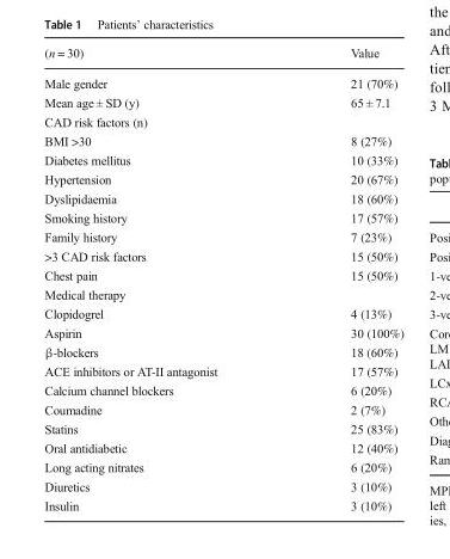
<table><thead><tr><td>(n = 30)</td><td>Value</td></tr></thead><tbody><tr><td>Male gender</td><td>21 (70%)</td></tr><tr><td>Mean age ± SD (y)</td><td>65 ± 7.1</td></tr><tr><td colspan="2">CAD risk factors (n)</td></tr><tr><td>BMI &gt;30</td><td>8 (27%)</td></tr><tr><td>Diabetes mellitus</td><td>10 (33%)</td></tr><tr><td>Hypertension</td><td>20 (67%)</td></tr><tr><td>Dyslipidaemia</td><td>18 (60%)</td></tr><tr><td>Smoking history</td><td>17 (57%)</td></tr><tr><td>Family history</td><td>7 (23%)</td></tr><tr><td>&gt;3 CAD risk factors</td><td>15 (50%)</td></tr><tr><td>Chest pain</td><td>15 (50%)</td></tr><tr><td colspan="2">Medical therapy</td></tr><tr><td>Clopidogrel</td><td>4 (13%)</td></tr><tr><td>Aspirin</td><td>30 (100%)</td></tr><tr><td>β-blockers</td><td>18 (60%)</td></tr><tr><td>ACE inhibitors or AT-II antagonist</td><td>17 (57%)</td></tr><tr><td>Calcium channel blockers</td><td>6 (20%)</td></tr><tr><td>Coumadine</td><td>2 (7%)</td></tr><tr><td>Statins</td><td>25 (83%)</td></tr><tr><td>Oral antidiabetic</td><td>12 (40%)</td></tr><tr><td>Long acting nitrates</td><td>6 (20%)</td></tr><tr><td>Diuretics</td><td>3 (10%)</td></tr><tr><td>Insulin</td><td>3 (10%)</td></tr></tbody></table>